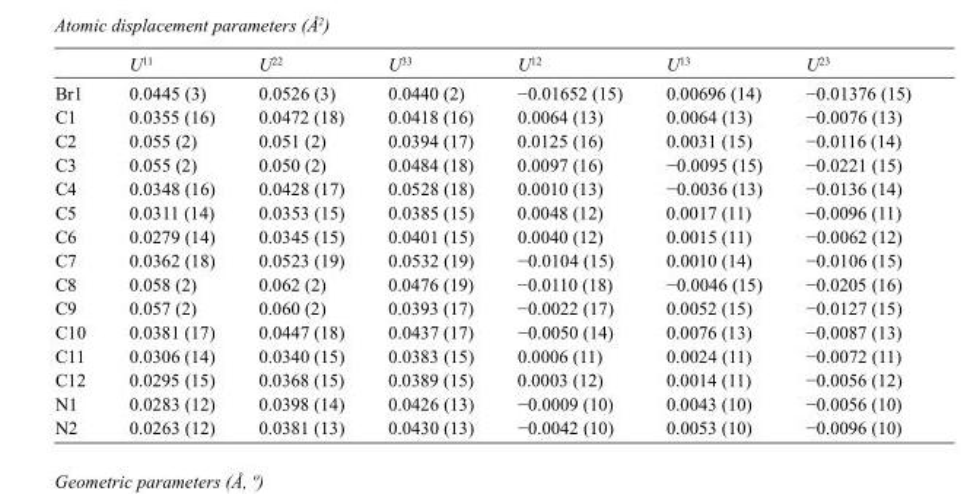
<table><thead><tr><td></td><td>U<sup>11</sup></td><td>U<sup>22</sup></td><td>U<sup>33</sup></td><td>U<sup>12</sup></td><td>U<sup>13</sup></td><td>U<sup>23</sup></td></tr></thead><tbody><tr><td>Br1</td><td>0.0445 (3)</td><td>0.0526 (3)</td><td>0.0440 (2)</td><td>−0.01652 (15)</td><td>0.00696 (14)</td><td>−0.01376 (15)</td></tr><tr><td>C1</td><td>0.0355 (16)</td><td>0.0472 (18)</td><td>0.0418 (16)</td><td>0.0064 (13)</td><td>0.0064 (13)</td><td>−0.0076 (13)</td></tr><tr><td>C2</td><td>0.055 (2)</td><td>0.051 (2)</td><td>0.0394 (17)</td><td>0.0125 (16)</td><td>0.0031 (15)</td><td>−0.0116 (14)</td></tr><tr><td>C3</td><td>0.055 (2)</td><td>0.050 (2)</td><td>0.0484 (18)</td><td>0.0097 (16)</td><td>−0.0095 (15)</td><td>−0.0221 (15)</td></tr><tr><td>C4</td><td>0.0348 (16)</td><td>0.0428 (17)</td><td>0.0528 (18)</td><td>0.0010 (13)</td><td>−0.0036 (13)</td><td>−0.0136 (14)</td></tr><tr><td>C5</td><td>0.0311 (14)</td><td>0.0353 (15)</td><td>0.0385 (15)</td><td>0.0048 (12)</td><td>0.0017 (11)</td><td>−0.0096 (11)</td></tr><tr><td>C6</td><td>0.0279 (14)</td><td>0.0345 (15)</td><td>0.0401 (15)</td><td>0.0040 (12)</td><td>0.0015 (11)</td><td>−0.0062 (12)</td></tr><tr><td>C7</td><td>0.0362 (18)</td><td>0.0523 (19)</td><td>0.0532 (19)</td><td>−0.0104 (15)</td><td>0.0010 (14)</td><td>−0.0106 (15)</td></tr><tr><td>C8</td><td>0.058 (2)</td><td>0.062 (2)</td><td>0.0476 (19)</td><td>−0.0110 (18)</td><td>−0.0046 (15)</td><td>−0.0205 (16)</td></tr><tr><td>C9</td><td>0.057 (2)</td><td>0.060 (2)</td><td>0.0393 (17)</td><td>−0.0022 (17)</td><td>0.0052 (15)</td><td>−0.0127 (15)</td></tr><tr><td>C10</td><td>0.0381 (17)</td><td>0.0447 (18)</td><td>0.0437 (17)</td><td>−0.0050 (14)</td><td>0.0076 (13)</td><td>−0.0087 (13)</td></tr><tr><td>C11</td><td>0.0306 (14)</td><td>0.0340 (15)</td><td>0.0383 (15)</td><td>0.0006 (11)</td><td>0.0024 (11)</td><td>−0.0072 (11)</td></tr><tr><td>C12</td><td>0.0295 (15)</td><td>0.0368 (15)</td><td>0.0389 (15)</td><td>0.0003 (12)</td><td>0.0014 (11)</td><td>−0.0056 (12)</td></tr><tr><td>N1</td><td>0.0283 (12)</td><td>0.0398 (14)</td><td>0.0426 (13)</td><td>−0.0009 (10)</td><td>0.0043 (10)</td><td>−0.0056 (10)</td></tr><tr><td>N2</td><td>0.0263 (12)</td><td>0.0381 (13)</td><td>0.0430 (13)</td><td>−0.0042 (10)</td><td>0.0053 (10)</td><td>−0.0096 (10)</td></tr></tbody></table>